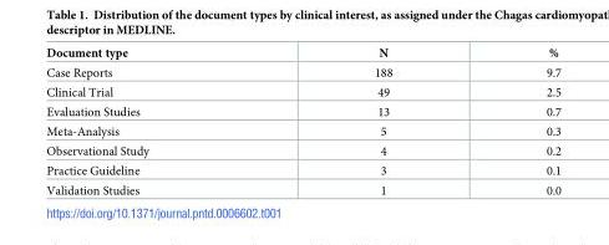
<table><thead><tr><td>Document type</td><td>N</td><td>%</td></tr></thead><tbody><tr><td>Case Reports</td><td>188</td><td>9.7</td></tr><tr><td>Clinical Trial</td><td>49</td><td>2.5</td></tr><tr><td>Evaluation Studies</td><td>13</td><td>0.7</td></tr><tr><td>Meta-Analysis</td><td>5</td><td>0.3</td></tr><tr><td>Observational Study</td><td>4</td><td>0.2</td></tr><tr><td>Practice Guideline</td><td>3</td><td>0.1</td></tr><tr><td>Validation Studies</td><td>1</td><td>0.0</td></tr></tbody></table>